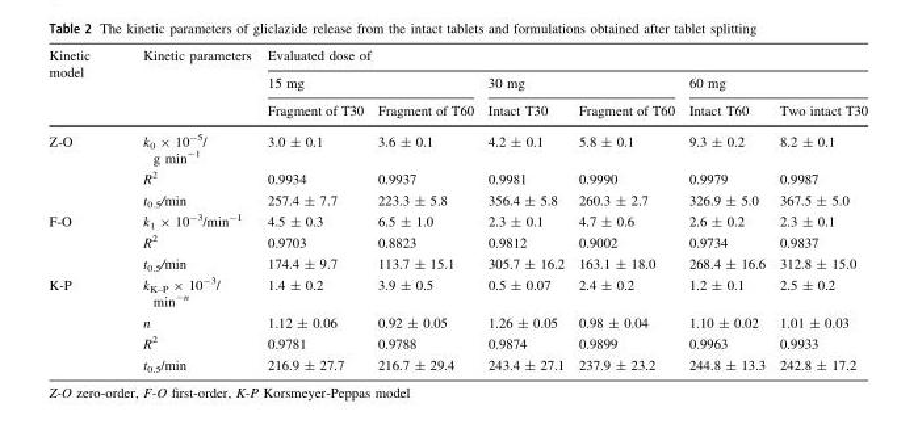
<table><thead><tr><td rowspan="3">Kinetic model</td><td rowspan="3">Kinetic parameters</td><td colspan="6">Evaluated dose of</td></tr><tr><td colspan="2">15 mg</td><td colspan="2">30 mg</td><td colspan="2">60 mg</td></tr><tr><td>Fragment of T30</td><td>Fragment of T60</td><td>Intact T30</td><td>Fragment of T60</td><td>Intact T60</td><td>Two intact T30</td></tr></thead><tbody><tr><td rowspan="3">Z-O</td><td>k<sub>0</sub> × 10<sup>-5</sup>/ g min<sup>-1</sup></td><td>3.0 ± 0.1</td><td>3.6 ± 0.1</td><td>4.2 ± 0.1</td><td>5.8 ± 0.1</td><td>9.3 ± 0.2</td><td>8.2 ± 0.1</td></tr><tr><td>R<sup>2</sup></td><td>0.9934</td><td>0.9937</td><td>0.9981</td><td>0.9990</td><td>0.9979</td><td>0.9987</td></tr><tr><td>t<sub>0.5</sub>/min</td><td>257.4 ± 7.7</td><td>223.3 ± 5.8</td><td>356.4 ± 5.8</td><td>260.3 ± 2.7</td><td>326.9 ± 5.0</td><td>367.5 ± 5.0</td></tr><tr><td rowspan="3">F-O</td><td>k<sub>1</sub> × 10<sup>-3</sup>/min<sup>-1</sup></td><td>4.5 ± 0.3</td><td>6.5 ± 1.0</td><td>2.3 ± 0.1</td><td>4.7 ± 0.6</td><td>2.6 ± 0.2</td><td>2.3 ± 0.1</td></tr><tr><td>R<sup>2</sup></td><td>0.9703</td><td>0.8823</td><td>0.9812</td><td>0.9002</td><td>0.9734</td><td>0.9837</td></tr><tr><td>t<sub>0.5</sub>/min</td><td>174.4 ± 9.7</td><td>113.7 ± 15.1</td><td>305.7 ± 16.2</td><td>163.1 ± 18.0</td><td>268.4 ± 16.6</td><td>312.8 ± 15.0</td></tr><tr><td rowspan="4">K-P</td><td>k<sub>K–P</sub> × 10<sup>-3</sup>/ min<sup>-n</sup></td><td>1.4 ± 0.2</td><td>3.9 ± 0.5</td><td>0.5 ± 0.07</td><td>2.4 ± 0.2</td><td>1.2 ± 0.1</td><td>2.5 ± 0.2</td></tr><tr><td>n</td><td>1.12 ± 0.06</td><td>0.92 ± 0.05</td><td>1.26 ± 0.05</td><td>0.98 ± 0.04</td><td>1.10 ± 0.02</td><td>1.01 ± 0.03</td></tr><tr><td>R<sup>2</sup></td><td>0.9781</td><td>0.9788</td><td>0.9874</td><td>0.9899</td><td>0.9963</td><td>0.9933</td></tr><tr><td>t<sub>0.5</sub>/min</td><td>216.9 ± 27.7</td><td>216.7 ± 29.4</td><td>243.4 ± 27.1</td><td>237.9 ± 23.2</td><td>244.8 ± 13.3</td><td>242.8 ± 17.2</td></tr></tbody></table>